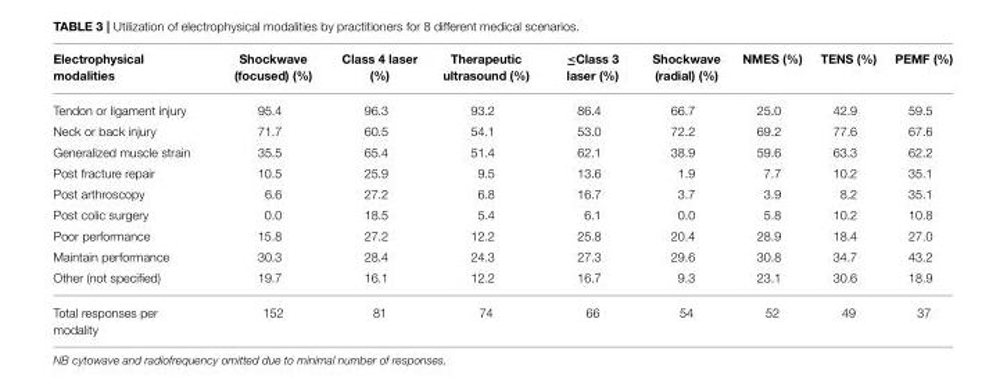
<table><thead><tr><td>Electrophysical modalities</td><td>Shockwave (focused) (%)</td><td>Class 4 laser (%)</td><td>Therapeutic ultrasound (%)</td><td>≤Class 3 laser (%)</td><td>Shockwave (radial) (%)</td><td>NMES (%)</td><td>TENS (%)</td><td>PEMF (%)</td></tr></thead><tbody><tr><td>Tendon or ligament injury</td><td>95.4</td><td>96.3</td><td>93.2</td><td>86.4</td><td>66.7</td><td>25.0</td><td>42.9</td><td>59.5</td></tr><tr><td>Neck or back injury</td><td>71.7</td><td>60.5</td><td>54.1</td><td>53.0</td><td>72.2</td><td>69.2</td><td>77.6</td><td>67.6</td></tr><tr><td>Generalized muscle strain</td><td>35.5</td><td>65.4</td><td>51.4</td><td>62.1</td><td>38.9</td><td>59.6</td><td>63.3</td><td>62.2</td></tr><tr><td>Post fracture repair</td><td>10.5</td><td>25.9</td><td>9.5</td><td>13.6</td><td>1.9</td><td>7.7</td><td>10.2</td><td>35.1</td></tr><tr><td>Post arthroscopy</td><td>6.6</td><td>27.2</td><td>6.8</td><td>16.7</td><td>3.7</td><td>3.9</td><td>8.2</td><td>35.1</td></tr><tr><td>Post colic surgery</td><td>0.0</td><td>18.5</td><td>5.4</td><td>6.1</td><td>0.0</td><td>5.8</td><td>10.2</td><td>10.8</td></tr><tr><td>Poor performance</td><td>15.8</td><td>27.2</td><td>12.2</td><td>25.8</td><td>20.4</td><td>28.9</td><td>18.4</td><td>27.0</td></tr><tr><td>Maintain performance</td><td>30.3</td><td>28.4</td><td>24.3</td><td>27.3</td><td>29.6</td><td>30.8</td><td>34.7</td><td>43.2</td></tr><tr><td>Other (not specified)</td><td>19.7</td><td>16.1</td><td>12.2</td><td>16.7</td><td>9.3</td><td>23.1</td><td>30.6</td><td>18.9</td></tr><tr><td>Total responses per modality</td><td>152</td><td>81</td><td>74</td><td>66</td><td>54</td><td>52</td><td>49</td><td>37</td></tr></tbody></table>